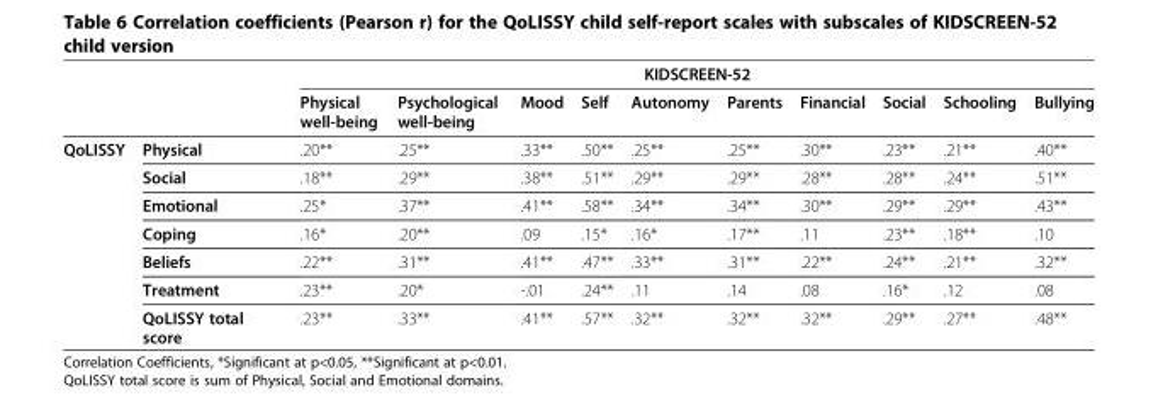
<table><thead><tr><td rowspan="2"></td><td rowspan="2"></td><td colspan="10">KIDSCREEN-52</td></tr><tr><td>Physical well-being</td><td>Psychological well-being</td><td>Mood</td><td>Self</td><td>Autonomy</td><td>Parents</td><td>Financial</td><td>Social</td><td>Schooling</td><td>Bullying</td></tr></thead><tbody><tr><td rowspan="7">QoLISSY</td><td>Physical</td><td>.20**</td><td>.25**</td><td>.33**</td><td>.50**</td><td>.25**</td><td>.25**</td><td>.30**</td><td>.23**</td><td>.21**</td><td>.40**</td></tr><tr><td>Social</td><td>.18**</td><td>.29**</td><td>.38**</td><td>.51**</td><td>.29**</td><td>.29**</td><td>.28**</td><td>.28**</td><td>.24**</td><td>.51**</td></tr><tr><td>Emotional</td><td>.25*</td><td>.37**</td><td>.41**</td><td>.58**</td><td>.34**</td><td>.34**</td><td>.30**</td><td>.29**</td><td>.29**</td><td>.43**</td></tr><tr><td>Coping</td><td>.16*</td><td>.20**</td><td>.09</td><td>.15*</td><td>.16*</td><td>.17**</td><td>.11</td><td>.23**</td><td>.18**</td><td>.10</td></tr><tr><td>Beliefs</td><td>.22**</td><td>.31**</td><td>.41**</td><td>.47**</td><td>.33**</td><td>.31**</td><td>.22**</td><td>.24**</td><td>.21**</td><td>.32**</td></tr><tr><td>Treatment</td><td>.23**</td><td>.20*</td><td>-.01</td><td>.24**</td><td>.11</td><td>.14</td><td>.08</td><td>.16*</td><td>.12</td><td>.08</td></tr><tr><td>QoLISSY total score</td><td>.23**</td><td>.33**</td><td>.41**</td><td>.57**</td><td>.32**</td><td>.32**</td><td>.32**</td><td>.29**</td><td>.27**</td><td>.48**</td></tr></tbody></table>